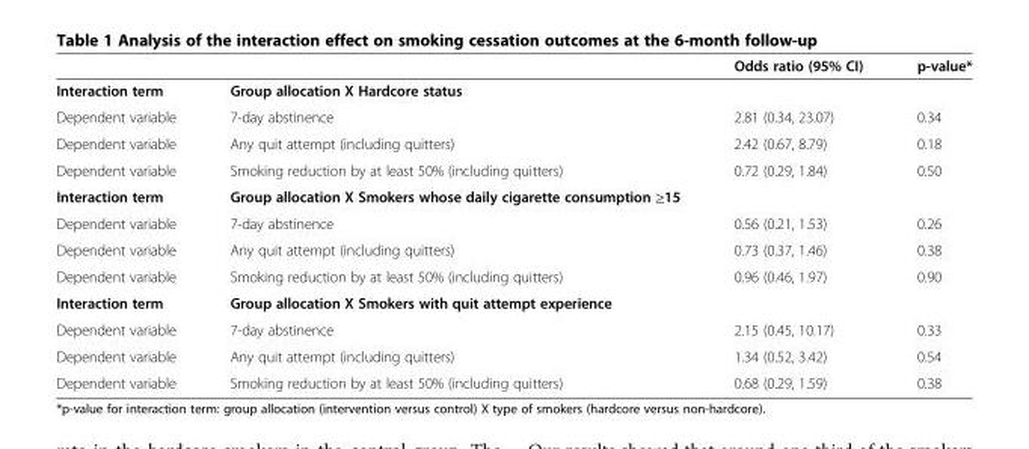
<table><thead><tr><td></td><td></td><td>Odds ratio (95% CI)</td><td>p-value*</td></tr></thead><tbody><tr><td>Interaction term</td><td>Group allocation X Hardcore status</td><td></td><td></td></tr><tr><td>Dependent variable</td><td>7-day abstinence</td><td>2.81 (0.34, 23.07)</td><td>0.34</td></tr><tr><td>Dependent variable</td><td>Any quit attempt (including quitters)</td><td>2.42 (0.67, 8.79)</td><td>0.18</td></tr><tr><td>Dependent variable</td><td>Smoking reduction by at least 50% (including quitters)</td><td>0.72 (0.29, 1.84)</td><td>0.50</td></tr><tr><td>Interaction term</td><td>Group allocation X Smokers whose daily cigarette consumption ≥15</td><td></td><td></td></tr><tr><td>Dependent variable</td><td>7-day abstinence</td><td>0.56 (0.21, 1.53)</td><td>0.26</td></tr><tr><td>Dependent variable</td><td>Any quit attempt (including quitters)</td><td>0.73 (0.37, 1.46)</td><td>0.38</td></tr><tr><td>Dependent variable</td><td>Smoking reduction by at least 50% (including quitters)</td><td>0.96 (0.46, 1.97)</td><td>0.90</td></tr><tr><td>Interaction term</td><td>Group allocation X Smokers with quit attempt experience</td><td></td><td></td></tr><tr><td>Dependent variable</td><td>7-day abstinence</td><td>2.15 (0.45, 10.17)</td><td>0.33</td></tr><tr><td>Dependent variable</td><td>Any quit attempt (including quitters)</td><td>1.34 (0.52, 3.42)</td><td>0.54</td></tr><tr><td>Dependent variable</td><td>Smoking reduction by at least 50% (including quitters)</td><td>0.68 (0.29, 1.59)</td><td>0.38</td></tr></tbody></table>